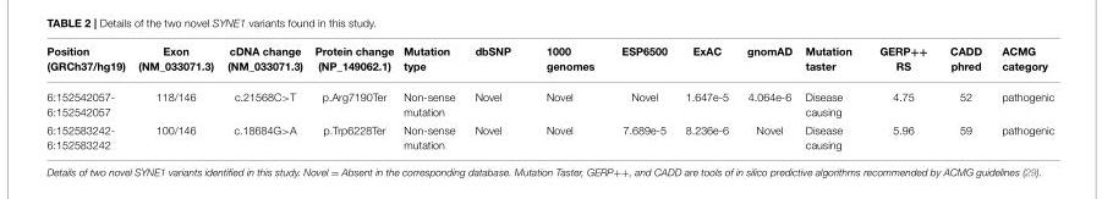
<table><thead><tr><td>Position (GRCh37/hg19)</td><td>Exon (NM_033071.3)</td><td>cDNA change (NM_033071.3)</td><td>Protein change (NP_149062.1)</td><td>Mutation type</td><td>dbSNP</td><td>1000 genomes</td><td>ESP6500</td><td>ExAC</td><td>gnomAD</td><td>Mutation taster</td><td>GERP++ RS</td><td>CADD phred</td><td>ACMG category</td></tr></thead><tbody><tr><td>6:152542057- 6:152542057</td><td>118/146</td><td>c.21568C&gt;T</td><td>p.Arg7190Ter</td><td>Non-sense mutation</td><td>Novel</td><td>Novel</td><td>Novel</td><td>1.647e-5</td><td>4.064e-6</td><td>Disease causing</td><td>4.75</td><td>52</td><td>pathogenic</td></tr><tr><td>6:152583242- 6:152583242</td><td>100/146</td><td>c.18684G&gt;A</td><td>p.Trp6228Ter</td><td>Non-sense mutation</td><td>Novel</td><td>Novel</td><td>7.689e-5</td><td>8.236e-6</td><td>Novel</td><td>Disease causing</td><td>5.96</td><td>59</td><td>pathogenic</td></tr></tbody></table>